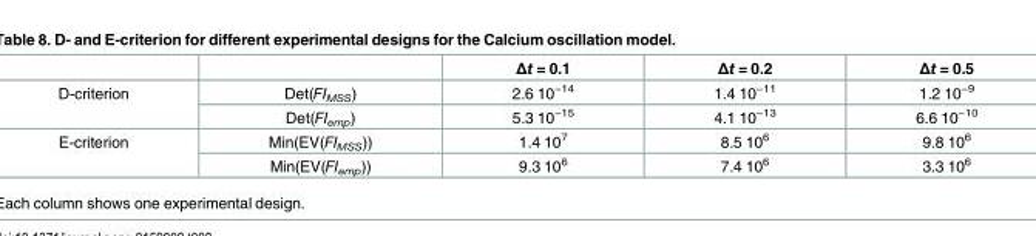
<table><thead><tr><td></td><td></td><td>Δt = 0.1</td><td>Δt = 0.2</td><td>Δt = 0.5</td></tr></thead><tbody><tr><td rowspan="2">D-criterion</td><td>Det(FI<sub>MSS</sub>)</td><td>2.6 10<sup>−14</sup></td><td>1.4 10<sup>−11</sup></td><td>1.2 10<sup>−9</sup></td></tr><tr><td>Det(FI<sub>emp</sub>)</td><td>5.3 10<sup>−15</sup></td><td>4.1 10<sup>−13</sup></td><td>6.6 10<sup>−10</sup></td></tr><tr><td rowspan="2">E-criterion</td><td>Min(EV(FI<sub>MSS</sub>))</td><td>1.4 10<sup>7</sup></td><td>8.5 10<sup>6</sup></td><td>9.8 10<sup>6</sup></td></tr><tr><td>Min(EV(FI<sub>emp</sub>))</td><td>9.3 10<sup>6</sup></td><td>7.4 10<sup>6</sup></td><td>3.3 10<sup>6</sup></td></tr></tbody></table>